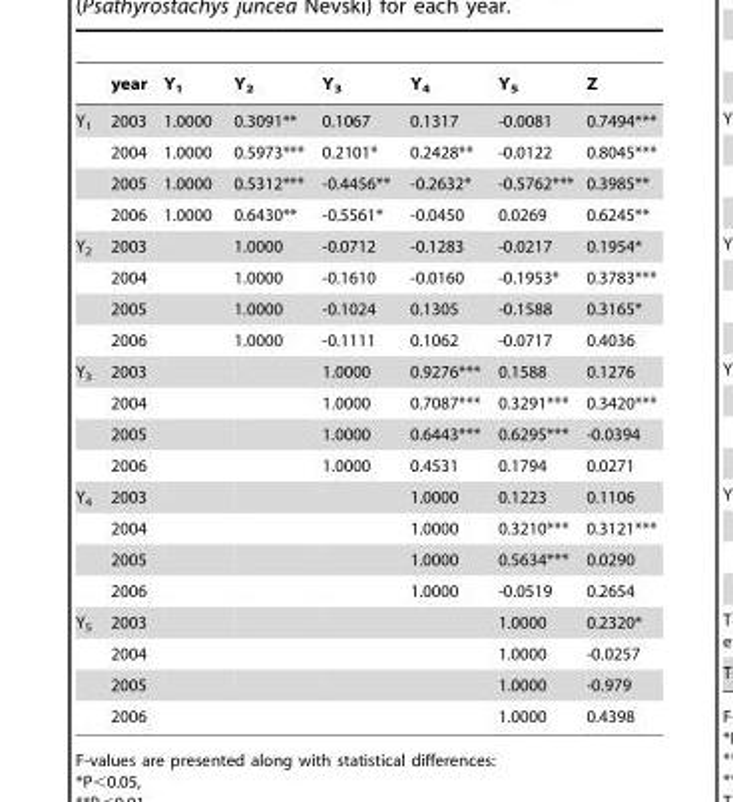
<table><thead><tr><td></td><td>year</td><td>Y<sub>1</sub></td><td>Y<sub>2</sub></td><td>Y<sub>3</sub></td><td>Y<sub>4</sub></td><td>Y<sub>5</sub></td><td>Z</td></tr></thead><tbody><tr><td rowspan="4">Y<sub>1</sub></td><td>2003</td><td>1.0000</td><td>0.3091**</td><td>0.1067</td><td>0.1317</td><td>-0.0081</td><td>0.7494***</td></tr><tr><td>2004</td><td>1.0000</td><td>0.5973***</td><td>0.2101*</td><td>0.2428**</td><td>-0.0122</td><td>0.8045***</td></tr><tr><td>2005</td><td>1.0000</td><td>0.5312***</td><td>-0.4456**</td><td>-0.2632*</td><td>-0.5762***</td><td>0.3985**</td></tr><tr><td>2006</td><td>1.0000</td><td>0.6430**</td><td>-0.5561*</td><td>-0.0450</td><td>0.0269</td><td>0.6245**</td></tr><tr><td rowspan="4">Y<sub>2</sub></td><td>2003</td><td></td><td>1.0000</td><td>-0.0712</td><td>-0.1283</td><td>-0.0217</td><td>0.1954*</td></tr><tr><td>2004</td><td></td><td>1.0000</td><td>-0.1610</td><td>-0.0160</td><td>-0.1953*</td><td>0.3783***</td></tr><tr><td>2005</td><td></td><td>1.0000</td><td>-0.1024</td><td>0.1305</td><td>-0.1588</td><td>0.3165*</td></tr><tr><td>2006</td><td></td><td>1.0000</td><td>-0.1111</td><td>0.1062</td><td>-0.0717</td><td>0.4036</td></tr><tr><td rowspan="4">Y<sub>3</sub></td><td>2003</td><td></td><td></td><td>1.0000</td><td>0.9276***</td><td>0.1588</td><td>0.1276</td></tr><tr><td>2004</td><td></td><td></td><td>1.0000</td><td>0.7087***</td><td>0.3291***</td><td>0.3420***</td></tr><tr><td>2005</td><td></td><td></td><td>1.0000</td><td>0.6443***</td><td>0.6295***</td><td>-0.0394</td></tr><tr><td>2006</td><td></td><td></td><td>1.0000</td><td>0.4531</td><td>0.1794</td><td>0.0271</td></tr><tr><td rowspan="4">Y<sub>4</sub></td><td>2003</td><td></td><td></td><td></td><td>1.0000</td><td>0.1223</td><td>0.1106</td></tr><tr><td>2004</td><td></td><td></td><td></td><td>1.0000</td><td>0.3210***</td><td>0.3121***</td></tr><tr><td>2005</td><td></td><td></td><td></td><td>1.0000</td><td>0.5634***</td><td>0.0290</td></tr><tr><td>2006</td><td></td><td></td><td></td><td>1.0000</td><td>-0.0519</td><td>0.2654</td></tr><tr><td rowspan="4">Y<sub>5</sub></td><td>2003</td><td></td><td></td><td></td><td></td><td>1.0000</td><td>0.2320*</td></tr><tr><td>2004</td><td></td><td></td><td></td><td></td><td>1.0000</td><td>-0.0257</td></tr><tr><td>2005</td><td></td><td></td><td></td><td></td><td>1.0000</td><td>-0.979</td></tr><tr><td>2006</td><td></td><td></td><td></td><td></td><td>1.0000</td><td>0.4398</td></tr></tbody></table>